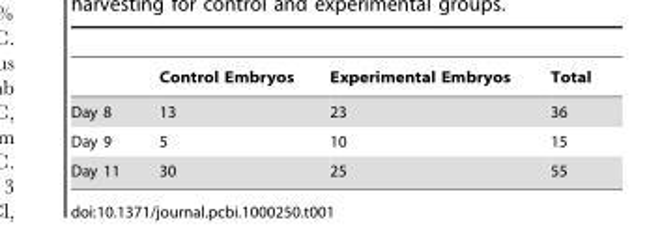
<table><thead><tr><td></td><td>Control Embryos</td><td>Experimental Embryos</td><td>Total</td></tr></thead><tbody><tr><td>Day 8</td><td>13</td><td>23</td><td>36</td></tr><tr><td>Day 9</td><td>5</td><td>10</td><td>15</td></tr><tr><td>Day 11</td><td>30</td><td>25</td><td>55</td></tr></tbody></table>